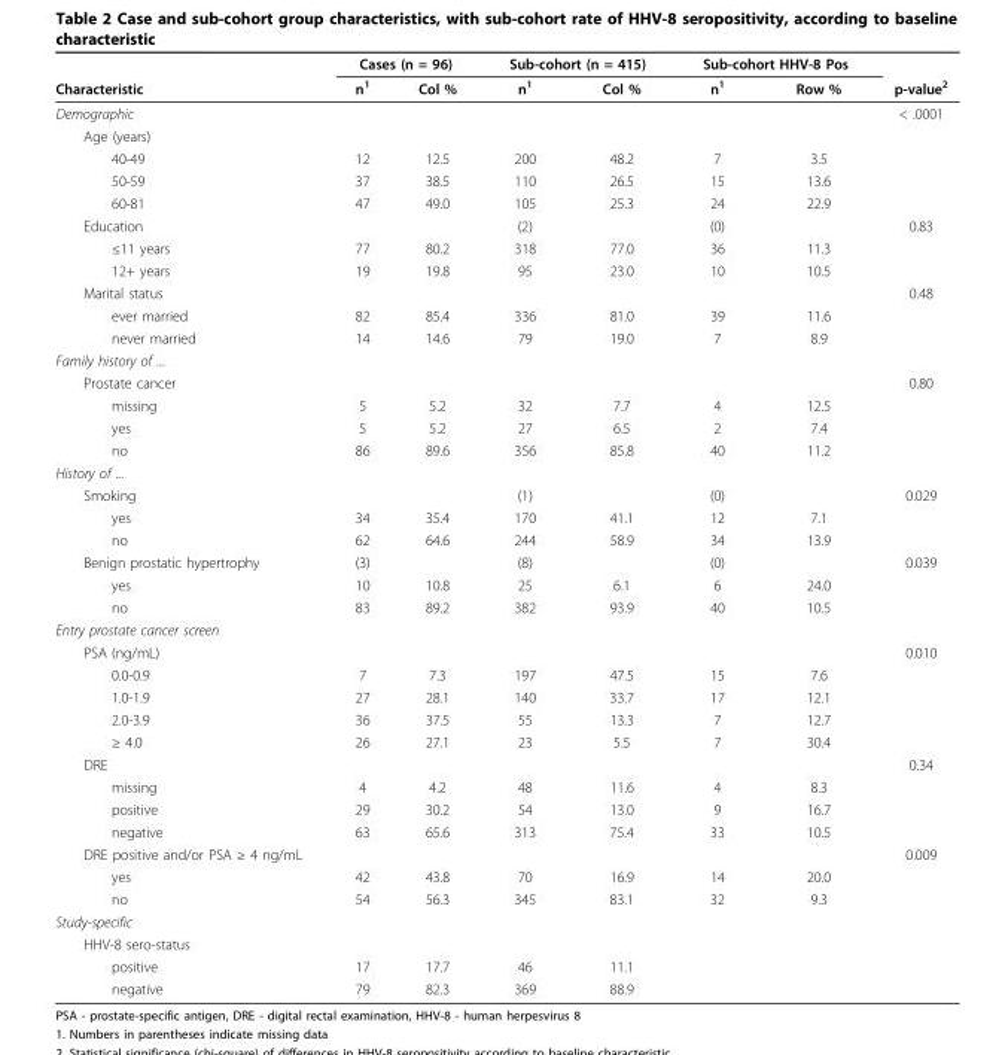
<table><thead><tr><td rowspan="2">Characteristic</td><td colspan="2">Cases (n = 96)</td><td colspan="2">Sub-cohort (n = 415)</td><td colspan="2">Sub-cohort HHV-8 Pos</td><td rowspan="2">p-value<sup>2</sup></td></tr><tr><td>n<sup>1</sup></td><td>Col %</td><td>n<sup>1</sup></td><td>Col %</td><td>n<sup>1</sup></td><td>Row %</td></tr></thead><tbody><tr><td>Demographic</td><td></td><td></td><td></td><td></td><td></td><td></td><td>&lt; .0001</td></tr><tr><td colspan="8">Age (years)</td></tr><tr><td>40-49</td><td>12</td><td>12.5</td><td>200</td><td>48.2</td><td>7</td><td>3.5</td><td></td></tr><tr><td>50-59</td><td>37</td><td>38.5</td><td>110</td><td>26.5</td><td>15</td><td>13.6</td><td></td></tr><tr><td>60-81</td><td>47</td><td>49.0</td><td>105</td><td>25.3</td><td>24</td><td>22.9</td><td></td></tr><tr><td>Education</td><td></td><td></td><td>(2)</td><td></td><td>(0)</td><td></td><td>0.83</td></tr><tr><td>≤11 years</td><td>77</td><td>80.2</td><td>318</td><td>77.0</td><td>36</td><td>11.3</td><td></td></tr><tr><td>12+ years</td><td>19</td><td>19.8</td><td>95</td><td>23.0</td><td>10</td><td>10.5</td><td></td></tr><tr><td>Marital status</td><td></td><td></td><td></td><td></td><td></td><td></td><td>0.48</td></tr><tr><td>ever married</td><td>82</td><td>85.4</td><td>336</td><td>81.0</td><td>39</td><td>11.6</td><td></td></tr><tr><td>never married</td><td>14</td><td>14.6</td><td>79</td><td>19.0</td><td>7</td><td>8.9</td><td></td></tr><tr><td colspan="8">Family history of ...</td></tr><tr><td>Prostate cancer</td><td></td><td></td><td></td><td></td><td></td><td></td><td>0.80</td></tr><tr><td>missing</td><td>5</td><td>5.2</td><td>32</td><td>7.7</td><td>4</td><td>12.5</td><td></td></tr><tr><td>yes</td><td>5</td><td>5.2</td><td>27</td><td>6.5</td><td>2</td><td>7.4</td><td></td></tr><tr><td>no</td><td>86</td><td>89.6</td><td>356</td><td>85.8</td><td>40</td><td>11.2</td><td></td></tr><tr><td colspan="8">History of ...</td></tr><tr><td>Smoking</td><td></td><td></td><td>(1)</td><td></td><td>(0)</td><td></td><td>0.029</td></tr><tr><td>yes</td><td>34</td><td>35.4</td><td>170</td><td>41.1</td><td>12</td><td>7.1</td><td></td></tr><tr><td>no</td><td>62</td><td>64.6</td><td>244</td><td>58.9</td><td>34</td><td>13.9</td><td></td></tr><tr><td>Benign prostatic hypertrophy</td><td>(3)</td><td></td><td>(8)</td><td></td><td>(0)</td><td></td><td>0.039</td></tr><tr><td>yes</td><td>10</td><td>10.8</td><td>25</td><td>6.1</td><td>6</td><td>24.0</td><td></td></tr><tr><td>no</td><td>83</td><td>89.2</td><td>382</td><td>93.9</td><td>40</td><td>10.5</td><td></td></tr><tr><td colspan="8">Entry prostate cancer screen</td></tr><tr><td>PSA (ng/mL)</td><td></td><td></td><td></td><td></td><td></td><td></td><td>0.010</td></tr><tr><td>0.0-0.9</td><td>7</td><td>7.3</td><td>197</td><td>47.5</td><td>15</td><td>7.6</td><td></td></tr><tr><td>1.0-1.9</td><td>27</td><td>28.1</td><td>140</td><td>33.7</td><td>17</td><td>12.1</td><td></td></tr><tr><td>2.0-3.9</td><td>36</td><td>37.5</td><td>55</td><td>13.3</td><td>7</td><td>12.7</td><td></td></tr><tr><td>≥ 4.0</td><td>26</td><td>27.1</td><td>23</td><td>5.5</td><td>7</td><td>30.4</td><td></td></tr><tr><td>DRE</td><td></td><td></td><td></td><td></td><td></td><td></td><td>0.34</td></tr><tr><td>missing</td><td>4</td><td>4.2</td><td>48</td><td>11.6</td><td>4</td><td>8.3</td><td></td></tr><tr><td>positive</td><td>29</td><td>30.2</td><td>54</td><td>13.0</td><td>9</td><td>16.7</td><td></td></tr><tr><td>negative</td><td>63</td><td>65.6</td><td>313</td><td>75.4</td><td>33</td><td>10.5</td><td></td></tr><tr><td>DRE positive and/or PSA ≥ 4 ng/mL</td><td></td><td></td><td></td><td></td><td></td><td></td><td>0.009</td></tr><tr><td>yes</td><td>42</td><td>43.8</td><td>70</td><td>16.9</td><td>14</td><td>20.0</td><td></td></tr><tr><td>no</td><td>54</td><td>56.3</td><td>345</td><td>83.1</td><td>32</td><td>9.3</td><td></td></tr><tr><td colspan="8">Study-specific</td></tr><tr><td colspan="8">HHV-8 sero-status</td></tr><tr><td>positive</td><td>17</td><td>17.7</td><td>46</td><td>11.1</td><td></td><td></td><td></td></tr><tr><td>negative</td><td>79</td><td>82.3</td><td>369</td><td>88.9</td><td></td><td></td><td></td></tr></tbody></table>